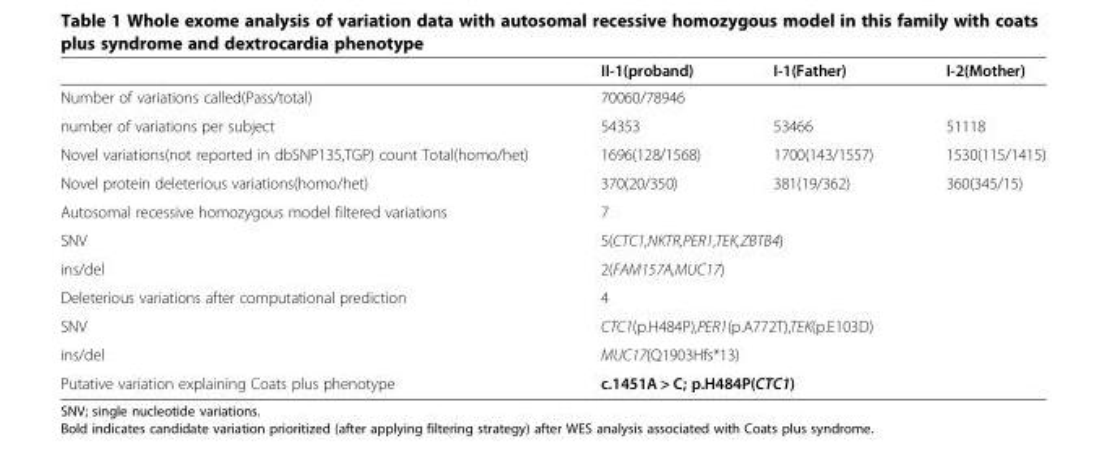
<table><thead><tr><td></td><td>II-1(proband)</td><td>I-1(Father)</td><td>I-2(Mother)</td></tr></thead><tbody><tr><td>Number of variations called(Pass/total)</td><td colspan="3">70060/78946</td></tr><tr><td>number of variations per subject</td><td>54353</td><td>53466</td><td>51118</td></tr><tr><td>Novel variations(not reported in dbSNP135,TGP) count Total(homo/het)</td><td>1696(128/1568)</td><td>1700(143/1557)</td><td>1530(115/1415)</td></tr><tr><td>Novel protein deleterious variations(homo/het)</td><td>370(20/350)</td><td>381(19/362)</td><td>360(345/15)</td></tr><tr><td>Autosomal recessive homozygous model filtered variations</td><td colspan="3">7</td></tr><tr><td>SNV</td><td colspan="3">5(CTC1,NKTR,PER1,TEK,ZBTB4)</td></tr><tr><td>ins/del</td><td colspan="3">2(FAM157A,MUC17)</td></tr><tr><td>Deleterious variations after computational prediction</td><td colspan="3">4</td></tr><tr><td>SNV</td><td colspan="3">CTC1(p.H484P),PER1(p.A772T),TEK(p.E103D)</td></tr><tr><td>ins/del</td><td colspan="3">MUC17(Q1903Hfs*13)</td></tr><tr><td>Putative variation explaining Coats plus phenotype</td><td colspan="3">c.1451A &gt; C; p.H484P(CTC1)</td></tr></tbody></table>